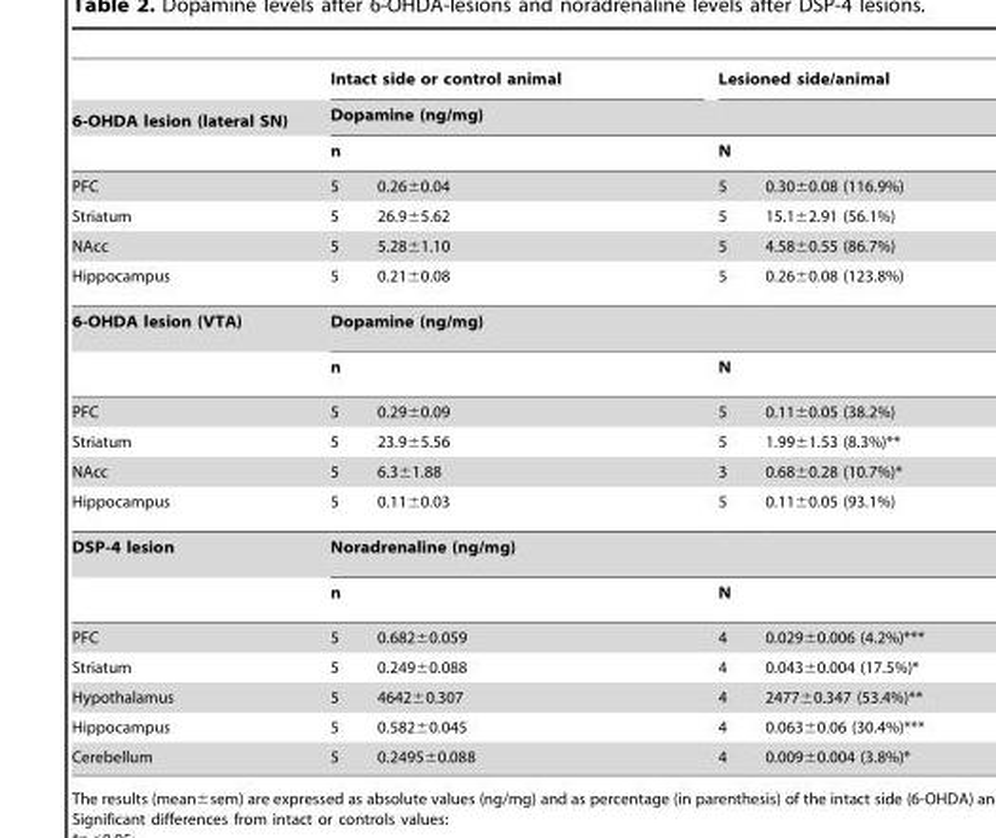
<table><thead><tr><td rowspan="4">6-OHDA lesion (lateral SN) PFC</td><td colspan="2">Intact side or control animal</td><td colspan="2">Lesioned side/animal</td></tr><tr><td colspan="4">Dopamine (ng/mg)</td></tr><tr><td colspan="2">n</td><td colspan="2">N</td></tr><tr><td>5</td><td>0.26±0.04</td><td>5</td><td>0.30±0.08 (116.9%)</td></tr></thead><tbody><tr><td>Striatum</td><td>5</td><td>26.9±5.62</td><td>5</td><td>15.1±2.91 (56.1%)</td></tr><tr><td>NAcc</td><td>5</td><td>5.28±1.10</td><td>5</td><td>4.58±0.55 (86.7%)</td></tr><tr><td>Hippocampus</td><td>5</td><td>0.21±0.08</td><td>5</td><td>0.26±0.08 (123.8%)</td></tr><tr><td rowspan="2">6-OHDA lesion (VTA)</td><td colspan="4">Dopamine (ng/mg)</td></tr><tr><td colspan="2">n</td><td colspan="2">N</td></tr><tr><td>PFC</td><td>5</td><td>0.29±0.09</td><td>5</td><td>0.11±0.05 (38.2%)</td></tr><tr><td>Striatum</td><td>5</td><td>23.9±5.56</td><td>5</td><td>1.99±1.53 (8.3%)**</td></tr><tr><td>NAcc</td><td>5</td><td>6.3±1.88</td><td>3</td><td>0.68±0.28 (10.7%)*</td></tr><tr><td>Hippocampus</td><td>5</td><td>0.11±0.03</td><td>5</td><td>0.11±0.05 (93.1%)</td></tr><tr><td rowspan="2">DSP-4 lesion</td><td colspan="4">Noradrenaline (ng/mg)</td></tr><tr><td colspan="2">n</td><td colspan="2">N</td></tr><tr><td>PFC</td><td>5</td><td>0.682±0.059</td><td>4</td><td>0.029±0.006 (4.2%)***</td></tr><tr><td>Striatum</td><td>5</td><td>0.249±0.088</td><td>4</td><td>0.043±0.004 (17.5%)*</td></tr><tr><td>Hypothalamus</td><td>5</td><td>4642±0.307</td><td>4</td><td>2477±0.347 (53.4%)**</td></tr><tr><td>Hippocampus</td><td>5</td><td>0.582±0.045</td><td>4</td><td>0.063±0.06 (30.4%)***</td></tr><tr><td>Cerebellum</td><td>5</td><td>0.2495±0.088</td><td>4</td><td>0.009±0.004 (3.8%)*</td></tr></tbody></table>